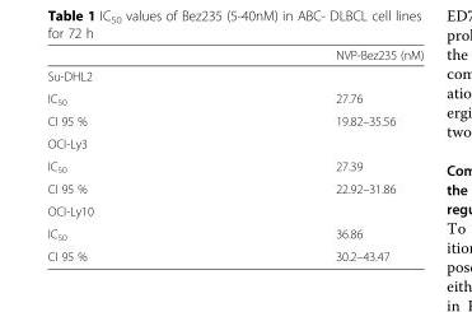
<table><thead><tr><td></td><td>NVP-Bez235 (nM)</td></tr></thead><tbody><tr><td colspan="2">Su-DHL2</td></tr><tr><td>IC<sub>50</sub></td><td>27.76</td></tr><tr><td>CI 95 %</td><td>19.82–35.56</td></tr><tr><td colspan="2">OCI-Ly3</td></tr><tr><td>IC<sub>50</sub></td><td>27.39</td></tr><tr><td>CI 95 %</td><td>22.92–31.86</td></tr><tr><td colspan="2">OCI-Ly10</td></tr><tr><td>IC<sub>50</sub></td><td>36.86</td></tr><tr><td>CI 95 %</td><td>30.2–43.47</td></tr></tbody></table>